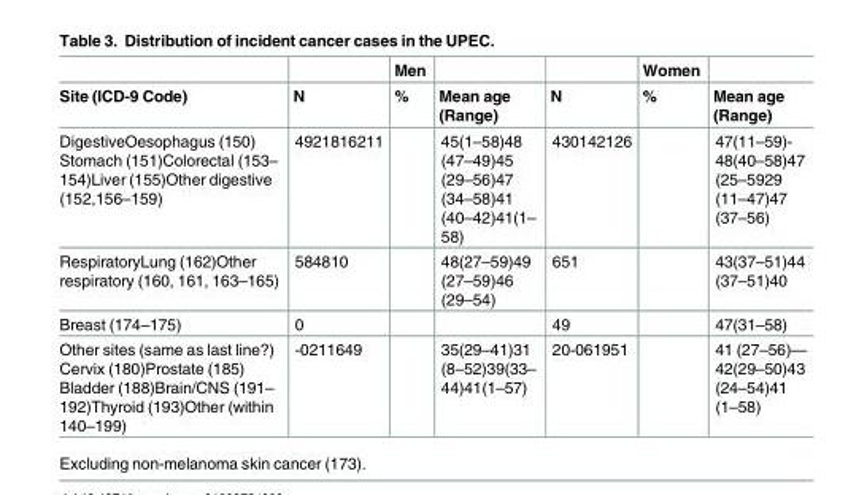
<table><thead><tr><td rowspan="2">Site (ICD-9 Code)</td><td rowspan="2">N</td><td rowspan="2">Men %</td><td rowspan="2">Mean age (Range)</td><td rowspan="2">N</td><td rowspan="2">Women %</td><td rowspan="2">Mean age (Range)</td></tr><tr></tr></thead><tbody><tr><td>DigestiveOesophagus (150) Stomach (151)Colorectal (153– 154)Liver (155)Other digestive (152,156–159)</td><td>4921816211</td><td></td><td>45(1–58)48 (47–49)45 (29–56)47 (34–58)41 (40–42)41(1– 58)</td><td>430142126</td><td></td><td>47(11–59)- 48(40–58)47 (25–5929 (11–47)47 (37–56)</td></tr><tr><td>RespiratoryLung (162)Other respiratory (160, 161, 163–165)</td><td>584810</td><td></td><td>48(27–59)49 (27–59)46 (29–54)</td><td>651</td><td></td><td>43(37–51)44 (37–51)40</td></tr><tr><td>Breast (174–175)</td><td>0</td><td></td><td></td><td>49</td><td></td><td>47(31–58)</td></tr><tr><td>Other sites (same as last line?) Cervix (180)Prostate (185) Bladder (188)Brain/CNS (191– 192)Thyroid (193)Other (within 140–199)</td><td>-0211649</td><td></td><td>35(29–41)31 (8–52)39(33– 44)41(1–57)</td><td>20-061951</td><td></td><td>41 (27–56)— 42(29–50)43 (24–54)41 (1–58)</td></tr></tbody></table>